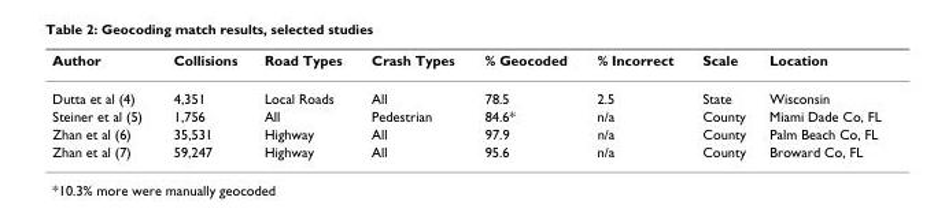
<table><thead><tr><td>Author</td><td>Collisions</td><td>Road Types</td><td>Crash Types</td><td>% Geocoded</td><td>% Incorrect</td><td>Scale</td><td>Location</td></tr></thead><tbody><tr><td>Dutta et al (4)</td><td>4,351</td><td>Local Roads</td><td>All</td><td>78.5</td><td>2.5</td><td>State</td><td>Wisconsin</td></tr><tr><td>Steiner et al (5)</td><td>1,756</td><td>All</td><td>Pedestrian</td><td>84.6*</td><td>n/a</td><td>County</td><td>Miami Dade Co, FL</td></tr><tr><td>Zhan et al (6)</td><td>35,531</td><td>Highway</td><td>All</td><td>97.9</td><td>n/a</td><td>County</td><td>Palm Beach Co, FL</td></tr><tr><td>Zhan et al (7)</td><td>59,247</td><td>Highway</td><td>All</td><td>95.6</td><td>n/a</td><td>County</td><td>Broward Co, FL</td></tr></tbody></table>